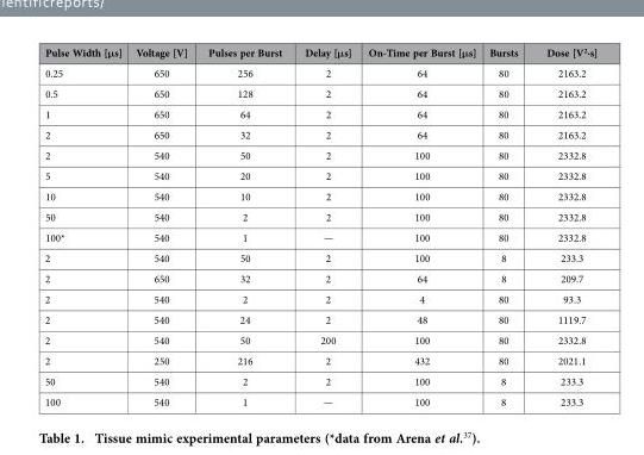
<table><thead><tr><td>Pulse Width [μs]</td><td>Voltage [V]</td><td>Pulses per Burst</td><td>Delay [μs]</td><td>On-Time per Burst [μs]</td><td>Bursts</td><td>Dose [V<sup>2</sup>·s]</td></tr></thead><tbody><tr><td>0.25</td><td>650</td><td>256</td><td>2</td><td>64</td><td>80</td><td>2163.2</td></tr><tr><td>0.5</td><td>650</td><td>128</td><td>2</td><td>64</td><td>80</td><td>2163.2</td></tr><tr><td>1</td><td>650</td><td>64</td><td>2</td><td>64</td><td>80</td><td>2163.2</td></tr><tr><td>2</td><td>650</td><td>32</td><td>2</td><td>64</td><td>80</td><td>2163.2</td></tr><tr><td>2</td><td>540</td><td>50</td><td>2</td><td>100</td><td>80</td><td>2332.8</td></tr><tr><td>5</td><td>540</td><td>20</td><td>2</td><td>100</td><td>80</td><td>2332.8</td></tr><tr><td>10</td><td>540</td><td>10</td><td>2</td><td>100</td><td>80</td><td>2332.8</td></tr><tr><td>50</td><td>540</td><td>2</td><td>2</td><td>100</td><td>80</td><td>2332.8</td></tr><tr><td>100*</td><td>540</td><td>1</td><td>—</td><td>100</td><td>80</td><td>2332.8</td></tr><tr><td>2</td><td>540</td><td>50</td><td>2</td><td>100</td><td>8</td><td>233.3</td></tr><tr><td>2</td><td>650</td><td>32</td><td>2</td><td>64</td><td>8</td><td>209.7</td></tr><tr><td>2</td><td>540</td><td>2</td><td>2</td><td>4</td><td>80</td><td>93.3</td></tr><tr><td>2</td><td>540</td><td>24</td><td>2</td><td>48</td><td>80</td><td>1119.7</td></tr><tr><td>2</td><td>540</td><td>50</td><td>200</td><td>100</td><td>80</td><td>2332.8</td></tr><tr><td>2</td><td>250</td><td>216</td><td>2</td><td>432</td><td>80</td><td>2021.1</td></tr><tr><td>50</td><td>540</td><td>2</td><td>2</td><td>100</td><td>8</td><td>233.3</td></tr><tr><td>100</td><td>540</td><td>1</td><td>—</td><td>100</td><td>8</td><td>233.3</td></tr></tbody></table>